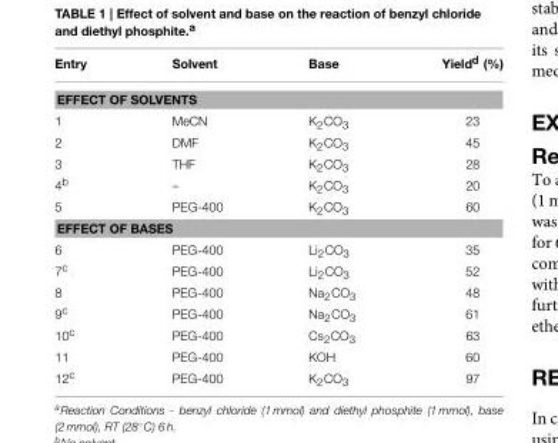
<table><thead><tr><td>Entry</td><td>Solvent</td><td>Base</td><td>Yield<sup>d</sup> (%)</td></tr></thead><tbody><tr><td colspan="4">EFFECT OF SOLVENTS</td></tr><tr><td>1</td><td>MeCN</td><td>K<sub>2</sub>CO<sub>3</sub></td><td>23</td></tr><tr><td>2</td><td>DMF</td><td>K<sub>2</sub>CO<sub>3</sub></td><td>45</td></tr><tr><td>3</td><td>THF</td><td>K<sub>2</sub>CO<sub>3</sub></td><td>28</td></tr><tr><td>4<sup>b</sup></td><td>–</td><td>K<sub>2</sub>CO<sub>3</sub></td><td>20</td></tr><tr><td>5</td><td>PEG-400</td><td>K<sub>2</sub>CO<sub>3</sub></td><td>60</td></tr><tr><td colspan="4">EFFECT OF BASES</td></tr><tr><td>6</td><td>PEG-400</td><td>Li<sub>2</sub>CO<sub>3</sub></td><td>35</td></tr><tr><td>7<sup>c</sup></td><td>PEG-400</td><td>Li<sub>2</sub>CO<sub>3</sub></td><td>52</td></tr><tr><td>8</td><td>PEG-400</td><td>Na<sub>2</sub>CO<sub>3</sub></td><td>48</td></tr><tr><td>9<sup>c</sup></td><td>PEG-400</td><td>Na<sub>2</sub>CO<sub>3</sub></td><td>61</td></tr><tr><td>10<sup>c</sup></td><td>PEG-400</td><td>Cs<sub>2</sub>CO<sub>3</sub></td><td>63</td></tr><tr><td>11</td><td>PEG-400</td><td>KOH</td><td>60</td></tr><tr><td>12<sup>c</sup></td><td>PEG-400</td><td>K<sub>2</sub>CO<sub>3</sub></td><td>97</td></tr></tbody></table>